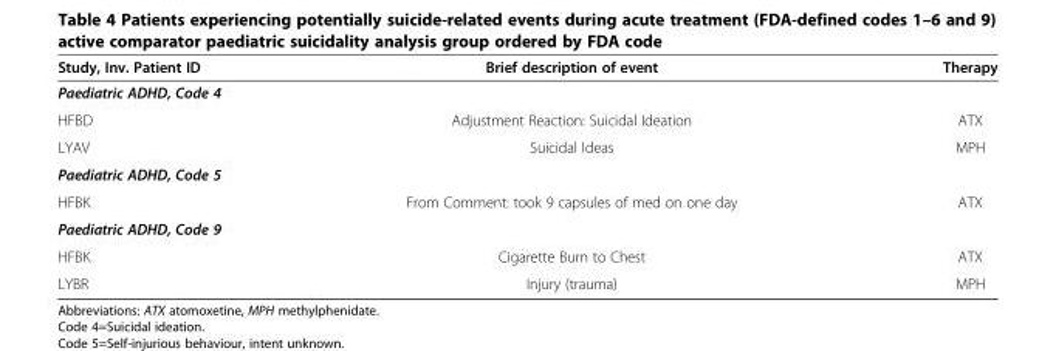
<table><thead><tr><td>Study, Inv. Patient ID</td><td>Brief description of event</td><td>Therapy</td></tr></thead><tbody><tr><td colspan="3">Paediatric ADHD, Code 4</td></tr><tr><td>HFBD</td><td>Adjustment Reaction: Suicidal Ideation</td><td>ATX</td></tr><tr><td>LYAV</td><td>Suicidal Ideas</td><td>MPH</td></tr><tr><td colspan="3">Paediatric ADHD, Code 5</td></tr><tr><td>HFBK</td><td>From Comment: took 9 capsules of med on one day</td><td>ATX</td></tr><tr><td colspan="3">Paediatric ADHD, Code 9</td></tr><tr><td>HFBK</td><td>Cigarette Burn to Chest</td><td>ATX</td></tr><tr><td>LYBR</td><td>Injury (trauma)</td><td>MPH</td></tr></tbody></table>